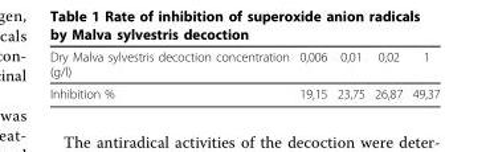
<table><thead><tr><td>Dry Malva sylvestris decoction concentration (g/l)</td><td>0,006</td><td>0,01</td><td>0,02</td><td>1</td></tr></thead><tbody><tr><td>Inhibition %</td><td>19,15</td><td>23,75</td><td>26,87</td><td>49,37</td></tr></tbody></table>